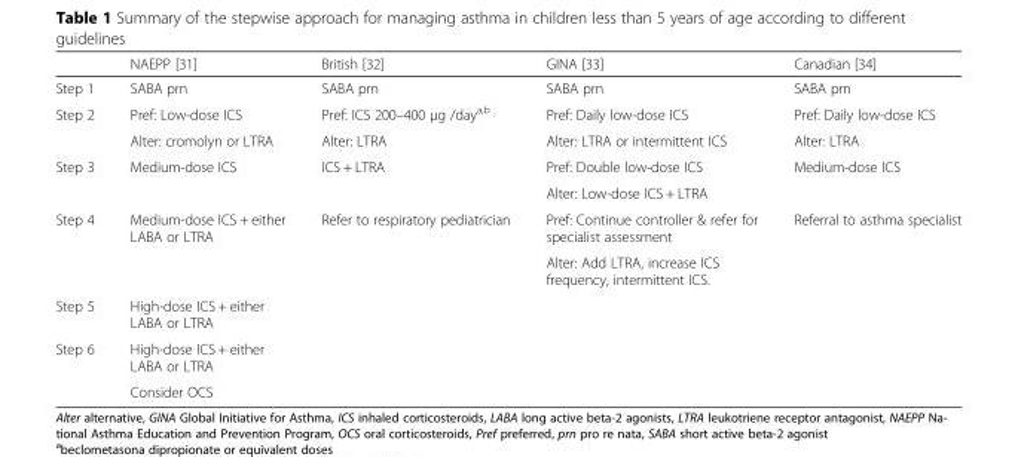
<table><thead><tr><td></td><td>NAEPP [31]</td><td>British [32]</td><td>GINA [33]</td><td>Canadian [34]</td></tr></thead><tbody><tr><td>Step 1</td><td>SABA prn</td><td>SABA prn</td><td>SABA prn</td><td>SABA prn</td></tr><tr><td rowspan="2">Step 2</td><td>Pref: Low-dose ICS</td><td>Pref: ICS 200–400 μg /day<sup>a,b</sup></td><td>Pref: Daily low-dose ICS</td><td>Pref: Daily low-dose ICS</td></tr><tr><td>Alter: cromolyn or LTRA</td><td>Alter: LTRA</td><td>Alter: LTRA or intermittent ICS</td><td>Alter: LTRA</td></tr><tr><td rowspan="2">Step 3</td><td rowspan="2">Medium-dose ICS</td><td rowspan="2">ICS + LTRA</td><td>Pref: Double low-dose ICS</td><td rowspan="2">Medium-dose ICS</td></tr><tr><td>Alter: Low-dose ICS + LTRA</td></tr><tr><td rowspan="2">Step 4</td><td rowspan="2">Medium-dose ICS + either LABA or LTRA</td><td rowspan="2">Refer to respiratory pediatrician</td><td>Pref: Continue controller &amp; refer for specialist assessment</td><td rowspan="2">Referral to asthma specialist</td></tr><tr><td>Alter: Add LTRA, increase ICS frequency, intermittent ICS.</td></tr><tr><td>Step 5</td><td>High-dose ICS + either LABA or LTRA</td><td></td><td></td><td></td></tr><tr><td rowspan="2">Step 6</td><td>High-dose ICS + either LABA or LTRA</td><td rowspan="2"></td><td rowspan="2"></td><td rowspan="2"></td></tr><tr><td>Consider OCS</td></tr></tbody></table>